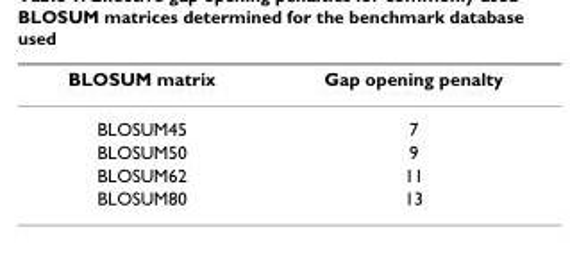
<table><thead><tr><td>BLOSUM matrix</td><td>Gap opening penalty</td></tr></thead><tbody><tr><td>BLOSUM45</td><td>7</td></tr><tr><td>BLOSUM50</td><td>9</td></tr><tr><td>BLOSUM62</td><td>11</td></tr><tr><td>BLOSUM80</td><td>13</td></tr></tbody></table>